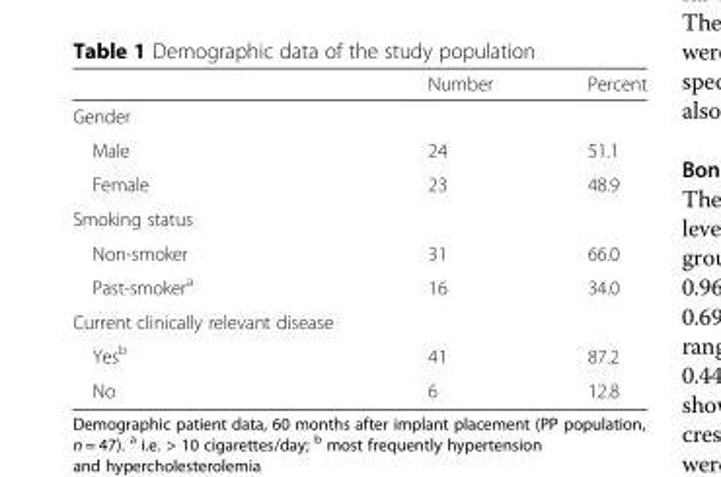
<table><thead><tr><td></td><td>Number</td><td>Percent</td></tr></thead><tbody><tr><td colspan="3">Gender</td></tr><tr><td>Male</td><td>24</td><td>51.1</td></tr><tr><td>Female</td><td>23</td><td>48.9</td></tr><tr><td colspan="3">Smoking status</td></tr><tr><td>Non-smoker</td><td>31</td><td>66.0</td></tr><tr><td>Past-smoker<sup>a</sup></td><td>16</td><td>34.0</td></tr><tr><td colspan="3">Current clinically relevant disease</td></tr><tr><td>Yes<sup>b</sup></td><td>41</td><td>87.2</td></tr><tr><td>No</td><td>6</td><td>12.8</td></tr></tbody></table>